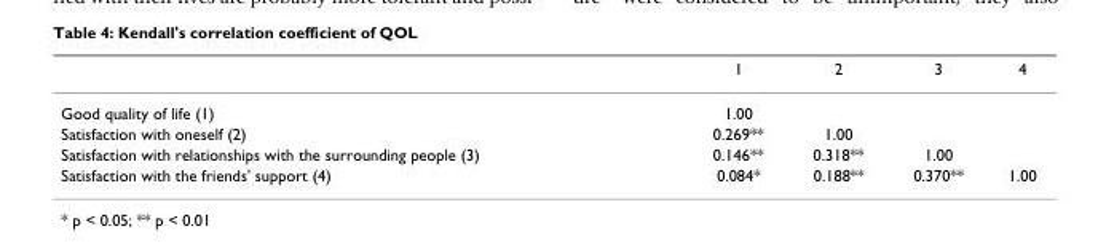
<table><thead><tr><td></td><td>1</td><td>2</td><td>3</td><td>4</td></tr></thead><tbody><tr><td>Good quality of life (1)</td><td>1.00</td><td></td><td></td><td></td></tr><tr><td>Satisfaction with oneself (2)</td><td>0.269**</td><td>1.00</td><td></td><td></td></tr><tr><td>Satisfaction with relationships with the surrounding people (3)</td><td>0.146**</td><td>0.318**</td><td>1.00</td><td></td></tr><tr><td>Satisfaction with the friends&#x27; support (4)</td><td>0.084*</td><td>0.188**</td><td>0.370**</td><td>1.00</td></tr></tbody></table>